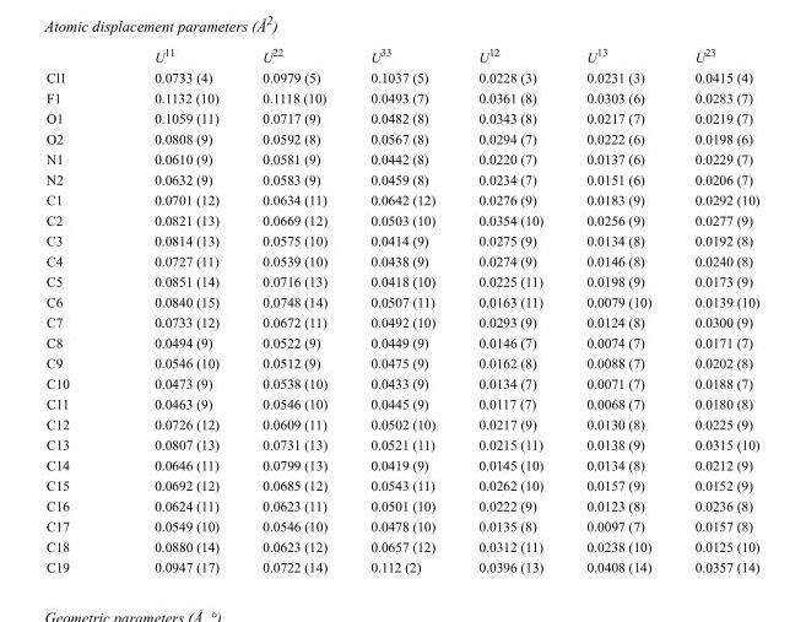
<table><thead><tr><td></td><td>U<sup>11</sup></td><td>U<sup>22</sup></td><td>U<sup>33</sup></td><td>U<sup>12</sup></td><td>U<sup>13</sup></td><td>U<sup>23</sup></td></tr></thead><tbody><tr><td>Cl1</td><td>0.0733 (4)</td><td>0.0979 (5)</td><td>0.1037 (5)</td><td>0.0228 (3)</td><td>0.0231 (3)</td><td>0.0415 (4)</td></tr><tr><td>F1</td><td>0.1132 (10)</td><td>0.1118 (10)</td><td>0.0493 (7)</td><td>0.0361 (8)</td><td>0.0303 (6)</td><td>0.0283 (7)</td></tr><tr><td>O1</td><td>0.1059 (11)</td><td>0.0717 (9)</td><td>0.0482 (8)</td><td>0.0343 (8)</td><td>0.0217 (7)</td><td>0.0219 (7)</td></tr><tr><td>O2</td><td>0.0808 (9)</td><td>0.0592 (8)</td><td>0.0567 (8)</td><td>0.0294 (7)</td><td>0.0222 (6)</td><td>0.0198 (6)</td></tr><tr><td>N1</td><td>0.0610 (9)</td><td>0.0581 (9)</td><td>0.0442 (8)</td><td>0.0220 (7)</td><td>0.0137 (6)</td><td>0.0229 (7)</td></tr><tr><td>N2</td><td>0.0632 (9)</td><td>0.0583 (9)</td><td>0.0459 (8)</td><td>0.0234 (7)</td><td>0.0151 (6)</td><td>0.0206 (7)</td></tr><tr><td>C1</td><td>0.0701 (12)</td><td>0.0634 (11)</td><td>0.0642 (12)</td><td>0.0276 (9)</td><td>0.0183 (9)</td><td>0.0292 (10)</td></tr><tr><td>C2</td><td>0.0821 (13)</td><td>0.0669 (12)</td><td>0.0503 (10)</td><td>0.0354 (10)</td><td>0.0256 (9)</td><td>0.0277 (9)</td></tr><tr><td>C3</td><td>0.0814 (13)</td><td>0.0575 (10)</td><td>0.0414 (9)</td><td>0.0275 (9)</td><td>0.0134 (8)</td><td>0.0192 (8)</td></tr><tr><td>C4</td><td>0.0727 (11)</td><td>0.0539 (10)</td><td>0.0438 (9)</td><td>0.0274 (9)</td><td>0.0146 (8)</td><td>0.0240 (8)</td></tr><tr><td>C5</td><td>0.0851 (14)</td><td>0.0716 (13)</td><td>0.0418 (10)</td><td>0.0225 (11)</td><td>0.0198 (9)</td><td>0.0173 (9)</td></tr><tr><td>C6</td><td>0.0840 (15)</td><td>0.0748 (14)</td><td>0.0507 (11)</td><td>0.0163 (11)</td><td>0.0079 (10)</td><td>0.0139 (10)</td></tr><tr><td>C7</td><td>0.0733 (12)</td><td>0.0672 (11)</td><td>0.0492 (10)</td><td>0.0293 (9)</td><td>0.0124 (8)</td><td>0.0300 (9)</td></tr><tr><td>C8</td><td>0.0494 (9)</td><td>0.0522 (9)</td><td>0.0449 (9)</td><td>0.0146 (7)</td><td>0.0074 (7)</td><td>0.0171 (7)</td></tr><tr><td>C9</td><td>0.0546 (10)</td><td>0.0512 (9)</td><td>0.0475 (9)</td><td>0.0162 (8)</td><td>0.0088 (7)</td><td>0.0202 (8)</td></tr><tr><td>C10</td><td>0.0473 (9)</td><td>0.0538 (10)</td><td>0.0433 (9)</td><td>0.0134 (7)</td><td>0.0071 (7)</td><td>0.0188 (7)</td></tr><tr><td>C11</td><td>0.0463 (9)</td><td>0.0546 (10)</td><td>0.0445 (9)</td><td>0.0117 (7)</td><td>0.0068 (7)</td><td>0.0180 (8)</td></tr><tr><td>C12</td><td>0.0726 (12)</td><td>0.0609 (11)</td><td>0.0502 (10)</td><td>0.0217 (9)</td><td>0.0130 (8)</td><td>0.0225 (9)</td></tr><tr><td>C13</td><td>0.0807 (13)</td><td>0.0731 (13)</td><td>0.0521 (11)</td><td>0.0215 (11)</td><td>0.0138 (9)</td><td>0.0315 (10)</td></tr><tr><td>C14</td><td>0.0646 (11)</td><td>0.0799 (13)</td><td>0.0419 (9)</td><td>0.0145 (10)</td><td>0.0134 (8)</td><td>0.0212 (9)</td></tr><tr><td>C15</td><td>0.0692 (12)</td><td>0.0685 (12)</td><td>0.0543 (11)</td><td>0.0262 (10)</td><td>0.0157 (9)</td><td>0.0152 (9)</td></tr><tr><td>C16</td><td>0.0624 (11)</td><td>0.0623 (11)</td><td>0.0501 (10)</td><td>0.0222 (9)</td><td>0.0123 (8)</td><td>0.0236 (8)</td></tr><tr><td>C17</td><td>0.0549 (10)</td><td>0.0546 (10)</td><td>0.0478 (10)</td><td>0.0135 (8)</td><td>0.0097 (7)</td><td>0.0157 (8)</td></tr><tr><td>C18</td><td>0.0880 (14)</td><td>0.0623 (12)</td><td>0.0657 (12)</td><td>0.0312 (11)</td><td>0.0238 (10)</td><td>0.0125 (10)</td></tr><tr><td>C19</td><td>0.0947 (17)</td><td>0.0722 (14)</td><td>0.112 (2)</td><td>0.0396 (13)</td><td>0.0408 (14)</td><td>0.0357 (14)</td></tr></tbody></table>